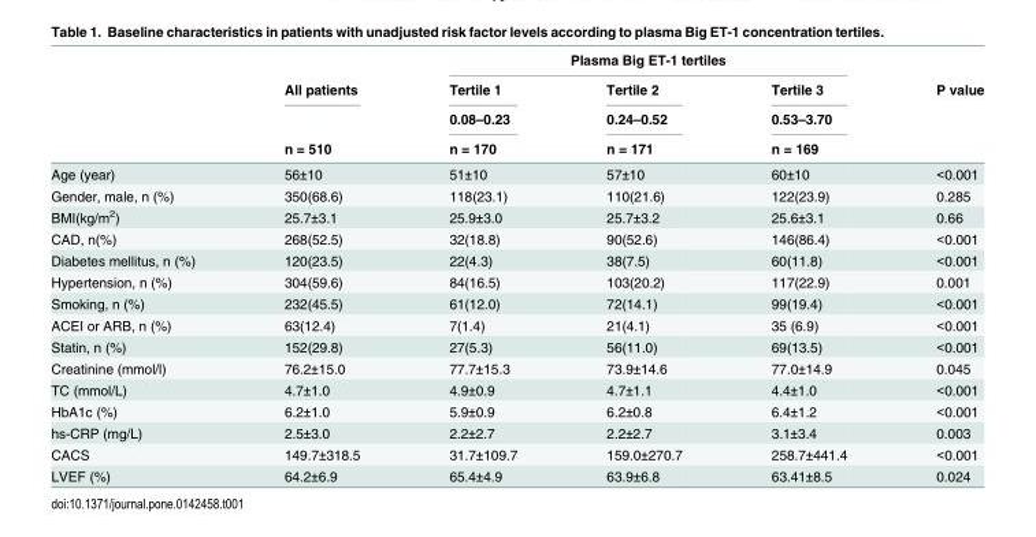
<table><thead><tr><td rowspan="4"></td><td rowspan="4">All patients n = 510</td><td colspan="3">Plasma Big ET-1 tertiles</td><td rowspan="4">P value</td></tr><tr><td rowspan="3">Tertile 1 0.08–0.23 n = 170</td><td rowspan="3">Tertile 2 0.24–0.52 n = 171</td><td rowspan="3">Tertile 3 0.53–3.70 n = 169</td></tr><tr></tr><tr></tr></thead><tbody><tr><td>Age (year)</td><td>56±10</td><td>51±10</td><td>57±10</td><td>60±10</td><td>&lt;0.001</td></tr><tr><td>Gender, male, n (%)</td><td>350(68.6)</td><td>118(23.1)</td><td>110(21.6)</td><td>122(23.9)</td><td>0.285</td></tr><tr><td>BMI(kg/m<sup>2</sup>)</td><td>25.7±3.1</td><td>25.9±3.0</td><td>25.7±3.2</td><td>25.6±3.1</td><td>0.66</td></tr><tr><td>CAD, n(%)</td><td>268(52.5)</td><td>32(18.8)</td><td>90(52.6)</td><td>146(86.4)</td><td>&lt;0.001</td></tr><tr><td>Diabetes mellitus, n (%)</td><td>120(23.5)</td><td>22(4.3)</td><td>38(7.5)</td><td>60(11.8)</td><td>&lt;0.001</td></tr><tr><td>Hypertension, n (%)</td><td>304(59.6)</td><td>84(16.5)</td><td>103(20.2)</td><td>117(22.9)</td><td>0.001</td></tr><tr><td>Smoking, n (%)</td><td>232(45.5)</td><td>61(12.0)</td><td>72(14.1)</td><td>99(19.4)</td><td>&lt;0.001</td></tr><tr><td>ACEI or ARB, n (%)</td><td>63(12.4)</td><td>7(1.4)</td><td>21(4.1)</td><td>35 (6.9)</td><td>&lt;0.001</td></tr><tr><td>Statin, n (%)</td><td>152(29.8)</td><td>27(5.3)</td><td>56(11.0)</td><td>69(13.5)</td><td>&lt;0.001</td></tr><tr><td>Creatinine (mmol/l)</td><td>76.2±15.0</td><td>77.7±15.3</td><td>73.9±14.6</td><td>77.0±14.9</td><td>0.045</td></tr><tr><td>TC (mmol/L)</td><td>4.7±1.0</td><td>4.9±0.9</td><td>4.7±1.1</td><td>4.4±1.0</td><td>&lt;0.001</td></tr><tr><td>HbA1c (%)</td><td>6.2±1.0</td><td>5.9±0.9</td><td>6.2±0.8</td><td>6.4±1.2</td><td>&lt;0.001</td></tr><tr><td>hs-CRP (mg/L)</td><td>2.5±3.0</td><td>2.2±2.7</td><td>2.2±2.7</td><td>3.1±3.4</td><td>0.003</td></tr><tr><td>CACS</td><td>149.7±318.5</td><td>31.7±109.7</td><td>159.0±270.7</td><td>258.7±441.4</td><td>&lt;0.001</td></tr><tr><td>LVEF (%)</td><td>64.2±6.9</td><td>65.4±4.9</td><td>63.9±6.8</td><td>63.41±8.5</td><td>0.024</td></tr></tbody></table>